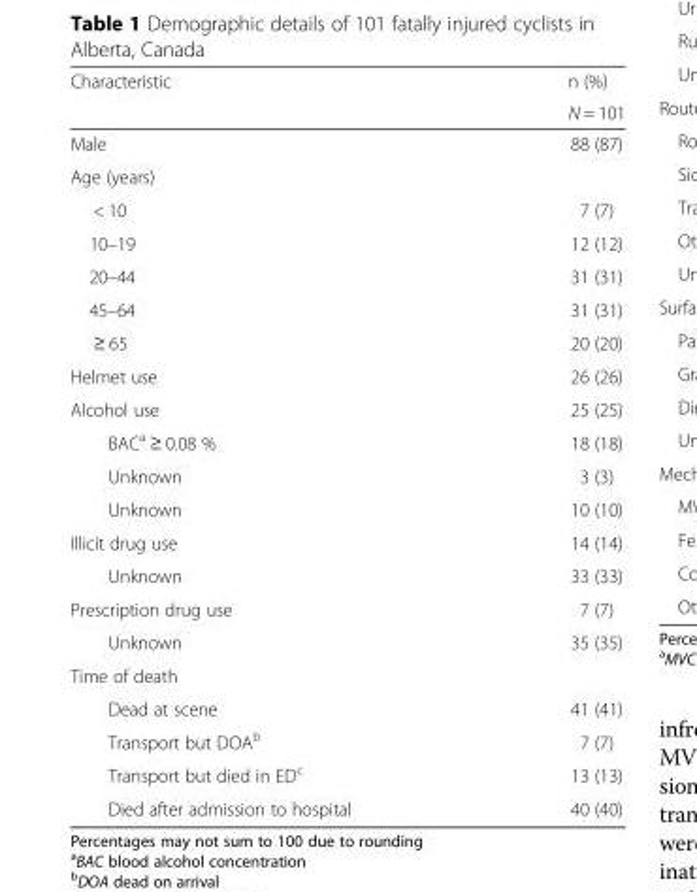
<table><thead><tr><td rowspan="2">Characteristic</td><td rowspan="2">n (%) N = 101</td></tr><tr></tr></thead><tbody><tr><td>Male</td><td>88 (87)</td></tr><tr><td colspan="2">Age (years)</td></tr><tr><td>&lt; 10</td><td>7 (7)</td></tr><tr><td>10–19</td><td>12 (12)</td></tr><tr><td>20–44</td><td>31 (31)</td></tr><tr><td>45–64</td><td>31 (31)</td></tr><tr><td>≥ 65</td><td>20 (20)</td></tr><tr><td>Helmet use</td><td>26 (26)</td></tr><tr><td>Alcohol use</td><td>25 (25)</td></tr><tr><td>BAC<sup>a</sup> ≥ 0.08 %</td><td>18 (18)</td></tr><tr><td>Unknown</td><td>3 (3)</td></tr><tr><td>Unknown</td><td>10 (10)</td></tr><tr><td>Illicit drug use</td><td>14 (14)</td></tr><tr><td>Unknown</td><td>33 (33)</td></tr><tr><td>Prescription drug use</td><td>7 (7)</td></tr><tr><td>Unknown</td><td>35 (35)</td></tr><tr><td colspan="2">Time of death</td></tr><tr><td>Dead at scene</td><td>41 (41)</td></tr><tr><td>Transport but DOA<sup>b</sup></td><td>7 (7)</td></tr><tr><td>Transport but died in ED<sup>c</sup></td><td>13 (13)</td></tr><tr><td>Died after admission to hospital</td><td>40 (40)</td></tr></tbody></table>